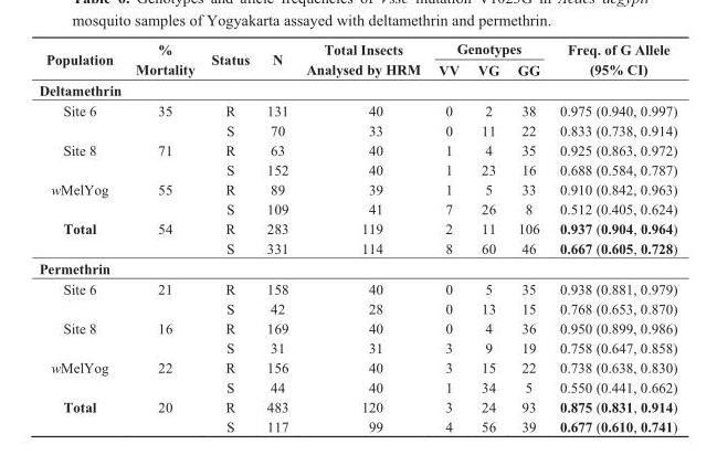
<table><thead><tr><td rowspan="2">Population</td><td rowspan="2">% Mortality</td><td rowspan="2">Status</td><td rowspan="2">N</td><td rowspan="2">Total Insects Analysed by HRM</td><td colspan="3">Genotypes</td><td rowspan="2">Freq. of G Allele (95% CI)</td></tr><tr><td>VV</td><td>VG</td><td>GG</td></tr></thead><tbody><tr><td colspan="9">Deltamethrin</td></tr><tr><td rowspan="2">Site 6</td><td>35</td><td>R</td><td>131</td><td>40</td><td>0</td><td>2</td><td>38</td><td>0.975 (0.940, 0.997)</td></tr><tr><td></td><td>S</td><td>70</td><td>33</td><td>0</td><td>11</td><td>22</td><td>0.833 (0.738, 0.914)</td></tr><tr><td rowspan="2">Site 8</td><td>71</td><td>R</td><td>63</td><td>40</td><td>1</td><td>4</td><td>35</td><td>0.925 (0.863, 0.972)</td></tr><tr><td></td><td>S</td><td>152</td><td>40</td><td>1</td><td>23</td><td>16</td><td>0.688 (0.584, 0.787)</td></tr><tr><td rowspan="2">wMelYog</td><td>55</td><td>R</td><td>89</td><td>39</td><td>1</td><td>5</td><td>33</td><td>0.910 (0.842, 0.963)</td></tr><tr><td></td><td>S</td><td>109</td><td>41</td><td>7</td><td>26</td><td>8</td><td>0.512 (0.405, 0.624)</td></tr><tr><td rowspan="2">Total</td><td>54</td><td>R</td><td>283</td><td>119</td><td>2</td><td>11</td><td>106</td><td>0.937 (0.904, 0.964)</td></tr><tr><td></td><td>S</td><td>331</td><td>114</td><td>8</td><td>60</td><td>46</td><td>0.667 (0.605, 0.728)</td></tr><tr><td colspan="9">Permethrin</td></tr><tr><td rowspan="2">Site 6</td><td>21</td><td>R</td><td>158</td><td>40</td><td>0</td><td>5</td><td>35</td><td>0.938 (0.881, 0.979)</td></tr><tr><td></td><td>S</td><td>42</td><td>28</td><td>0</td><td>13</td><td>15</td><td>0.768 (0.653, 0.870)</td></tr><tr><td rowspan="2">Site 8</td><td>16</td><td>R</td><td>169</td><td>40</td><td>0</td><td>4</td><td>36</td><td>0.950 (0.899, 0.986)</td></tr><tr><td></td><td>S</td><td>31</td><td>31</td><td>3</td><td>9</td><td>19</td><td>0.758 (0.647, 0.858)</td></tr><tr><td rowspan="2">wMelYog</td><td>22</td><td>R</td><td>156</td><td>40</td><td>3</td><td>15</td><td>22</td><td>0.738 (0.638, 0.830)</td></tr><tr><td></td><td>S</td><td>44</td><td>40</td><td>1</td><td>34</td><td>5</td><td>0.550 (0.441, 0.662)</td></tr><tr><td rowspan="2">Total</td><td>20</td><td>R</td><td>483</td><td>120</td><td>3</td><td>24</td><td>93</td><td>0.875 (0.831, 0.914)</td></tr><tr><td></td><td>S</td><td>117</td><td>99</td><td>4</td><td>56</td><td>39</td><td>0.677 (0.610, 0.741)</td></tr></tbody></table>